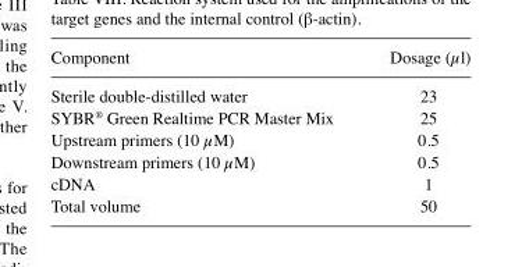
<table><thead><tr><td>Component</td><td>Dosage (µl)</td></tr></thead><tbody><tr><td>Sterile double-distilled water</td><td>23</td></tr><tr><td>SYBR<sup>®</sup> Green Realtime PCR Master Mix</td><td>25</td></tr><tr><td>Upstream primers (10 µM)</td><td>0.5</td></tr><tr><td>Downstream primers (10 µM)</td><td>0.5</td></tr><tr><td>cDNA</td><td>1</td></tr><tr><td>Total volume</td><td>50</td></tr></tbody></table>